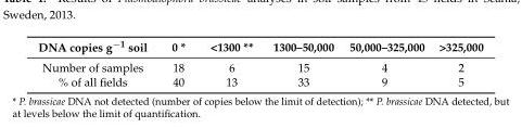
<table><thead><tr><td>DNA copies g<sup>−1</sup> soil</td><td>0 *</td><td>&lt;1300 **</td><td>1300–50,000</td><td>50,000–325,000</td><td>&gt;325,000</td></tr></thead><tbody><tr><td>Number of samples</td><td>18</td><td>6</td><td>15</td><td>4</td><td>2</td></tr><tr><td>% of all fields</td><td>40</td><td>13</td><td>33</td><td>9</td><td>5</td></tr></tbody></table>